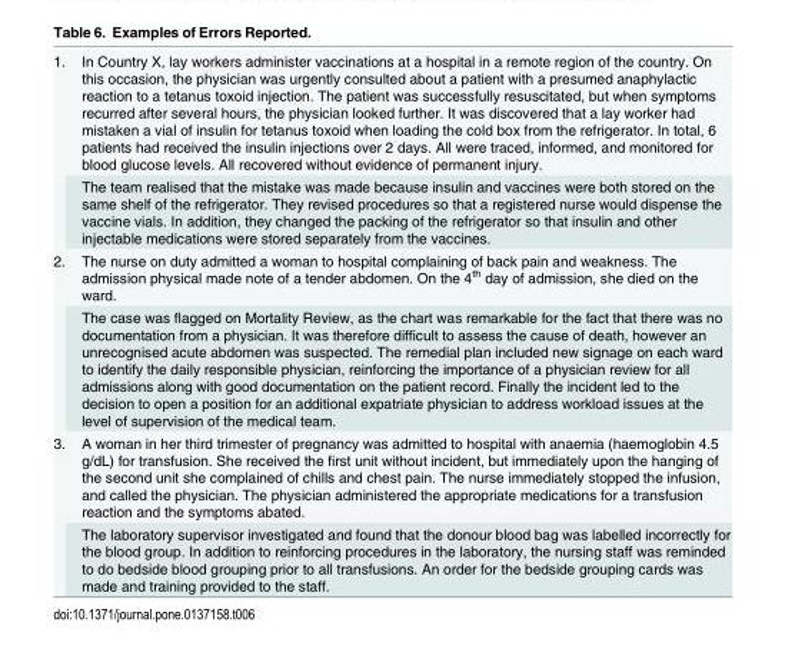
<table><tbody><tr><td rowspan="2">1.</td><td>In Country X, lay workers administer vaccinations at a hospital in a remote region of the country. On this occasion, the physician was urgently consulted about a patient with a presumed anaphylactic reaction to a tetanus toxoid injection. The patient was successfully resuscitated, but when symptoms recurred after several hours, the physician looked further. It was discovered that a lay worker had mistaken a vial of insulin for tetanus toxoid when loading the cold box from the refrigerator. In total, 6 patients had received the insulin injections over 2 days. All were traced, informed, and monitored for blood glucose levels. All recovered without evidence of permanent injury.</td></tr><tr><td>The team realised that the mistake was made because insulin and vaccines were both stored on the same shelf of the refrigerator. They revised procedures so that a registered nurse would dispense the vaccine vials. In addition, they changed the packing of the refrigerator so that insulin and other injectable medications were stored separately from the vaccines.</td></tr><tr><td rowspan="2">2.</td><td>The nurse on duty admitted a woman to hospital complaining of back pain and weakness. The admission physical made note of a tender abdomen. On the 4<sup>th</sup> day of admission, she died on the ward.</td></tr><tr><td>The case was flagged on Mortality Review, as the chart was remarkable for the fact that there was no documentation from a physician. It was therefore difficult to assess the cause of death, however an unrecognised acute abdomen was suspected. The remedial plan included new signage on each ward to identify the daily responsible physician, reinforcing the importance of a physician review for all admissions along with good documentation on the patient record. Finally the incident led to the decision to open a position for an additional expatriate physician to address workload issues at the level of supervision of the medical team.</td></tr><tr><td rowspan="2">3.</td><td>A woman in her third trimester of pregnancy was admitted to hospital with anaemia (haemoglobin 4.5 g/dL) for transfusion. She received the first unit without incident, but immediately upon the hanging of the second unit she complained of chills and chest pain. The nurse immediately stopped the infusion, and called the physician. The physician administered the appropriate medications for a transfusion reaction and the symptoms abated.</td></tr><tr><td>The laboratory supervisor investigated and found that the donour blood bag was labelled incorrectly for the blood group. In addition to reinforcing procedures in the laboratory, the nursing staff was reminded to do bedside blood grouping prior to all transfusions. An order for the bedside grouping cards was made and training provided to the staff.</td></tr></tbody></table>